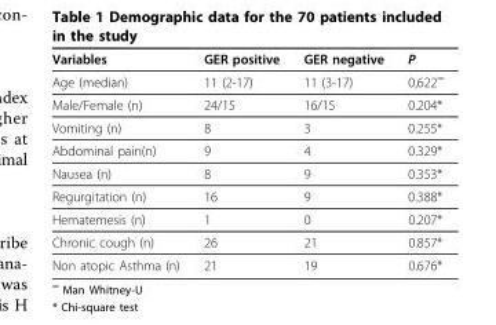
<table><thead><tr><td>Variables</td><td>GER positive</td><td>GER negative</td><td>P</td></tr></thead><tbody><tr><td>Age (median)</td><td>11 (2-17)</td><td>11 (3-17)</td><td>0,622<sup>∞</sup></td></tr><tr><td>Male/Female (n)</td><td>24/15</td><td>16/15</td><td>0.204*</td></tr><tr><td>Vomiting (n)</td><td>8</td><td>3</td><td>0.255*</td></tr><tr><td>Abdominal pain(n)</td><td>9</td><td>4</td><td>0.329*</td></tr><tr><td>Nausea (n)</td><td>8</td><td>9</td><td>0.353*</td></tr><tr><td>Regurgitation (n)</td><td>16</td><td>9</td><td>0.388*</td></tr><tr><td>Hematemesis (n)</td><td>1</td><td>0</td><td>0.207*</td></tr><tr><td>Chronic cough (n)</td><td>26</td><td>21</td><td>0.857*</td></tr><tr><td>Non atopic Asthma (n)</td><td>21</td><td>19</td><td>0.676*</td></tr></tbody></table>